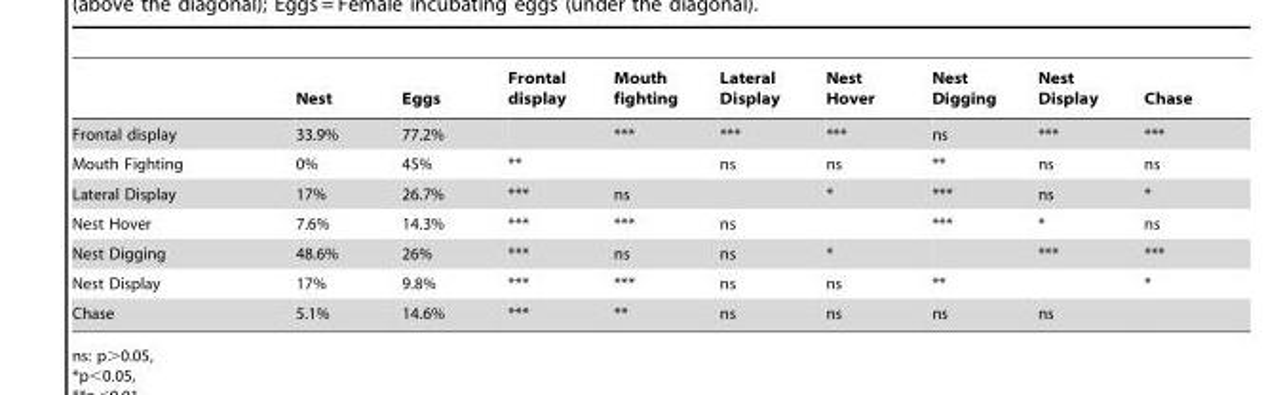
<table><thead><tr><td></td><td>Nest</td><td>Eggs</td><td>Frontal display</td><td>Mouth fighting</td><td>Lateral Display</td><td>Nest Hover</td><td>Nest Digging</td><td>Nest Display</td><td>Chase</td></tr></thead><tbody><tr><td>Frontal display</td><td>33.9%</td><td>77.2%</td><td></td><td>***</td><td>***</td><td>***</td><td>ns</td><td>***</td><td>***</td></tr><tr><td>Mouth Fighting</td><td>0%</td><td>45%</td><td>**</td><td></td><td>ns</td><td>ns</td><td>**</td><td>ns</td><td>ns</td></tr><tr><td>Lateral Display</td><td>17%</td><td>26.7%</td><td>***</td><td>ns</td><td></td><td>*</td><td>***</td><td>ns</td><td>*</td></tr><tr><td>Nest Hover</td><td>7.6%</td><td>14.3%</td><td>***</td><td>***</td><td>ns</td><td></td><td>***</td><td>*</td><td>ns</td></tr><tr><td>Nest Digging</td><td>48.6%</td><td>26%</td><td>***</td><td>ns</td><td>ns</td><td>*</td><td></td><td>***</td><td>***</td></tr><tr><td>Nest Display</td><td>17%</td><td>9.8%</td><td>***</td><td>***</td><td>ns</td><td>ns</td><td>**</td><td></td><td>*</td></tr><tr><td>Chase</td><td>5.1%</td><td>14.6%</td><td>***</td><td>**</td><td>ns</td><td>ns</td><td>ns</td><td>ns</td><td></td></tr></tbody></table>